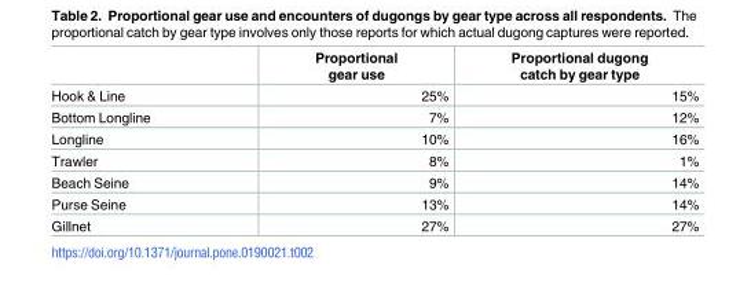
<table><thead><tr><td></td><td>Proportional gear use</td><td>Proportional dugong catch by gear type</td></tr></thead><tbody><tr><td>Hook &amp; Line</td><td>25%</td><td>15%</td></tr><tr><td>Bottom Longline</td><td>7%</td><td>12%</td></tr><tr><td>Longline</td><td>10%</td><td>16%</td></tr><tr><td>Trawler</td><td>8%</td><td>1%</td></tr><tr><td>Beach Seine</td><td>9%</td><td>14%</td></tr><tr><td>Purse Seine</td><td>13%</td><td>14%</td></tr><tr><td>Gillnet</td><td>27%</td><td>27%</td></tr></tbody></table>